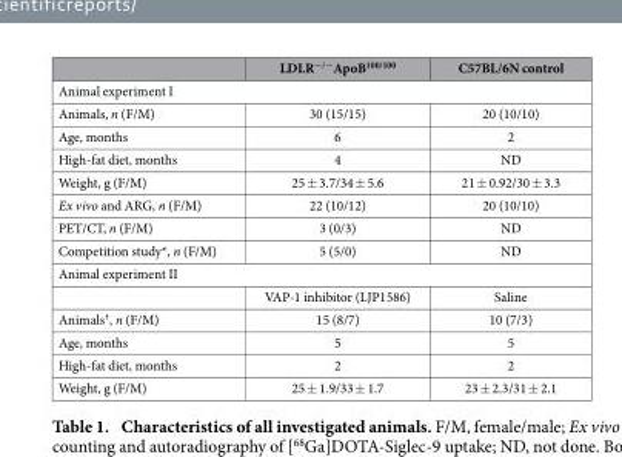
<table><thead><tr><td></td><td>LDLR−/−ApoB<sup>100/100</sup></td><td>C57BL/6N control</td></tr></thead><tbody><tr><td colspan="3">Animal experiment I</td></tr><tr><td>Animals, n (F/M)</td><td>30 (15/15)</td><td>20 (10/10)</td></tr><tr><td>Age, months</td><td>6</td><td>2</td></tr><tr><td>High-fat diet, months</td><td>4</td><td>ND</td></tr><tr><td>Weight, g (F/M)</td><td>25 ± 3.7/34 ± 5.6</td><td>21 ± 0.92/30 ± 3.3</td></tr><tr><td>Ex vivo and ARG, n (F/M)</td><td>22 (10/12)</td><td>20 (10/10)</td></tr><tr><td>PET/CT, n (F/M)</td><td>3 (0/3)</td><td>ND</td></tr><tr><td>Competition study*, n (F/M)</td><td>5 (5/0)</td><td>ND</td></tr><tr><td colspan="3">Animal experiment II</td></tr><tr><td></td><td>VAP-1 inhibitor (LJP1586)</td><td>Saline</td></tr><tr><td>Animals†, n (F/M)</td><td>15 (8/7)</td><td>10 (7/3)</td></tr><tr><td>Age, months</td><td>5</td><td>5</td></tr><tr><td>High-fat diet, months</td><td>2</td><td>2</td></tr><tr><td>Weight, g (F/M)</td><td>25 ± 1.9/33 ± 1.7</td><td>23 ± 2.3/31 ± 2.1</td></tr></tbody></table>